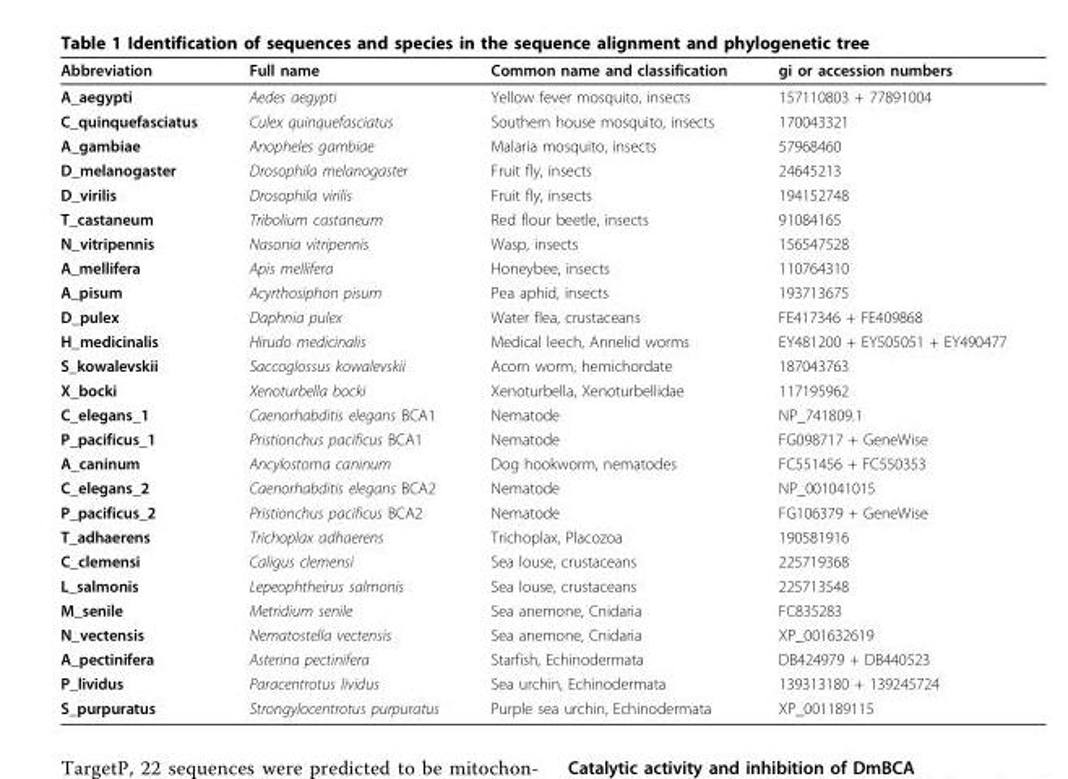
<table><thead><tr><td>Abbreviation</td><td>Full name</td><td>Common name and classification</td><td>gi or accession numbers</td></tr></thead><tbody><tr><td>A_aegypti</td><td>Aedes aegypti</td><td>Yellow fever mosquito, insects</td><td>157110803 + 77891004</td></tr><tr><td>C_quinquefasciatus</td><td>Culex quinquefasciatus</td><td>Southern house mosquito, insects</td><td>170043321</td></tr><tr><td>A_gambiae</td><td>Anopheles gambiae</td><td>Malaria mosquito, insects</td><td>57968460</td></tr><tr><td>D_melanogaster</td><td>Drosophila melanogaster</td><td>Fruit fly, insects</td><td>24645213</td></tr><tr><td>D_virilis</td><td>Drosophila virilis</td><td>Fruit fly, insects</td><td>194152748</td></tr><tr><td>T_castaneum</td><td>Tribolium castaneum</td><td>Red flour beetle, insects</td><td>91084165</td></tr><tr><td>N_vitripennis</td><td>Nasonia vitripennis</td><td>Wasp, insects</td><td>156547528</td></tr><tr><td>A_mellifera</td><td>Apis mellifera</td><td>Honeybee, insects</td><td>110764310</td></tr><tr><td>A_pisum</td><td>Acyrthosiphon pisum</td><td>Pea aphid, insects</td><td>193713675</td></tr><tr><td>D_pulex</td><td>Daphnia pulex</td><td>Water flea, crustaceans</td><td>FE417346 + FE409868</td></tr><tr><td>H_medicinalis</td><td>Hirudo medicinalis</td><td>Medical leech, Annelid worms</td><td>EY481200 + EY505051 + EY490477</td></tr><tr><td>S_kowalevskii</td><td>Saccoglossus kowalevskii</td><td>Acorn worm, hemichordate</td><td>187043763</td></tr><tr><td>X_bocki</td><td>Xenoturbella bocki</td><td>Xenoturbella, Xenoturbellidae</td><td>117195962</td></tr><tr><td>C_elegans_1</td><td>Caenorhabditis elegans BCA1</td><td>Nematode</td><td>NP_741809.1</td></tr><tr><td>P_pacificus_1</td><td>Pristionchus pacificus BCA1</td><td>Nematode</td><td>FG098717 + GeneWise</td></tr><tr><td>A_caninum</td><td>Ancylostoma caninum</td><td>Dog hookworm, nematodes</td><td>FC551456 + FC550353</td></tr><tr><td>C_elegans_2</td><td>Caenorhabditis elegans BCA2</td><td>Nematode</td><td>NP_001041015</td></tr><tr><td>P_pacificus_2</td><td>Pristionchus pacificus BCA2</td><td>Nematode</td><td>FG106379 + GeneWise</td></tr><tr><td>T_adhaerens</td><td>Trichoplax adhaerens</td><td>Trichoplax, Placozoa</td><td>190581916</td></tr><tr><td>C_clemensi</td><td>Caligus clemensi</td><td>Sea louse, crustaceans</td><td>225719368</td></tr><tr><td>L_salmonis</td><td>Lepeophtheirus salmonis</td><td>Sea louse, crustaceans</td><td>225713548</td></tr><tr><td>M_senile</td><td>Metridium senile</td><td>Sea anemone, Cnidaria</td><td>FC835283</td></tr><tr><td>N_vectensis</td><td>Nematostella vectensis</td><td>Sea anemone, Cnidaria</td><td>XP_001632619</td></tr><tr><td>A_pectinifera</td><td>Asterina pectinifera</td><td>Starfish, Echinodermata</td><td>DB424979 + DB440523</td></tr><tr><td>P_lividus</td><td>Paracentrotus lividus</td><td>Sea urchin, Echinodermata</td><td>139313180 + 139245724</td></tr><tr><td>S_purpuratus</td><td>Strongylocentrotus purpuratus</td><td>Purple sea urchin, Echinodermata</td><td>XP_001189115</td></tr></tbody></table>